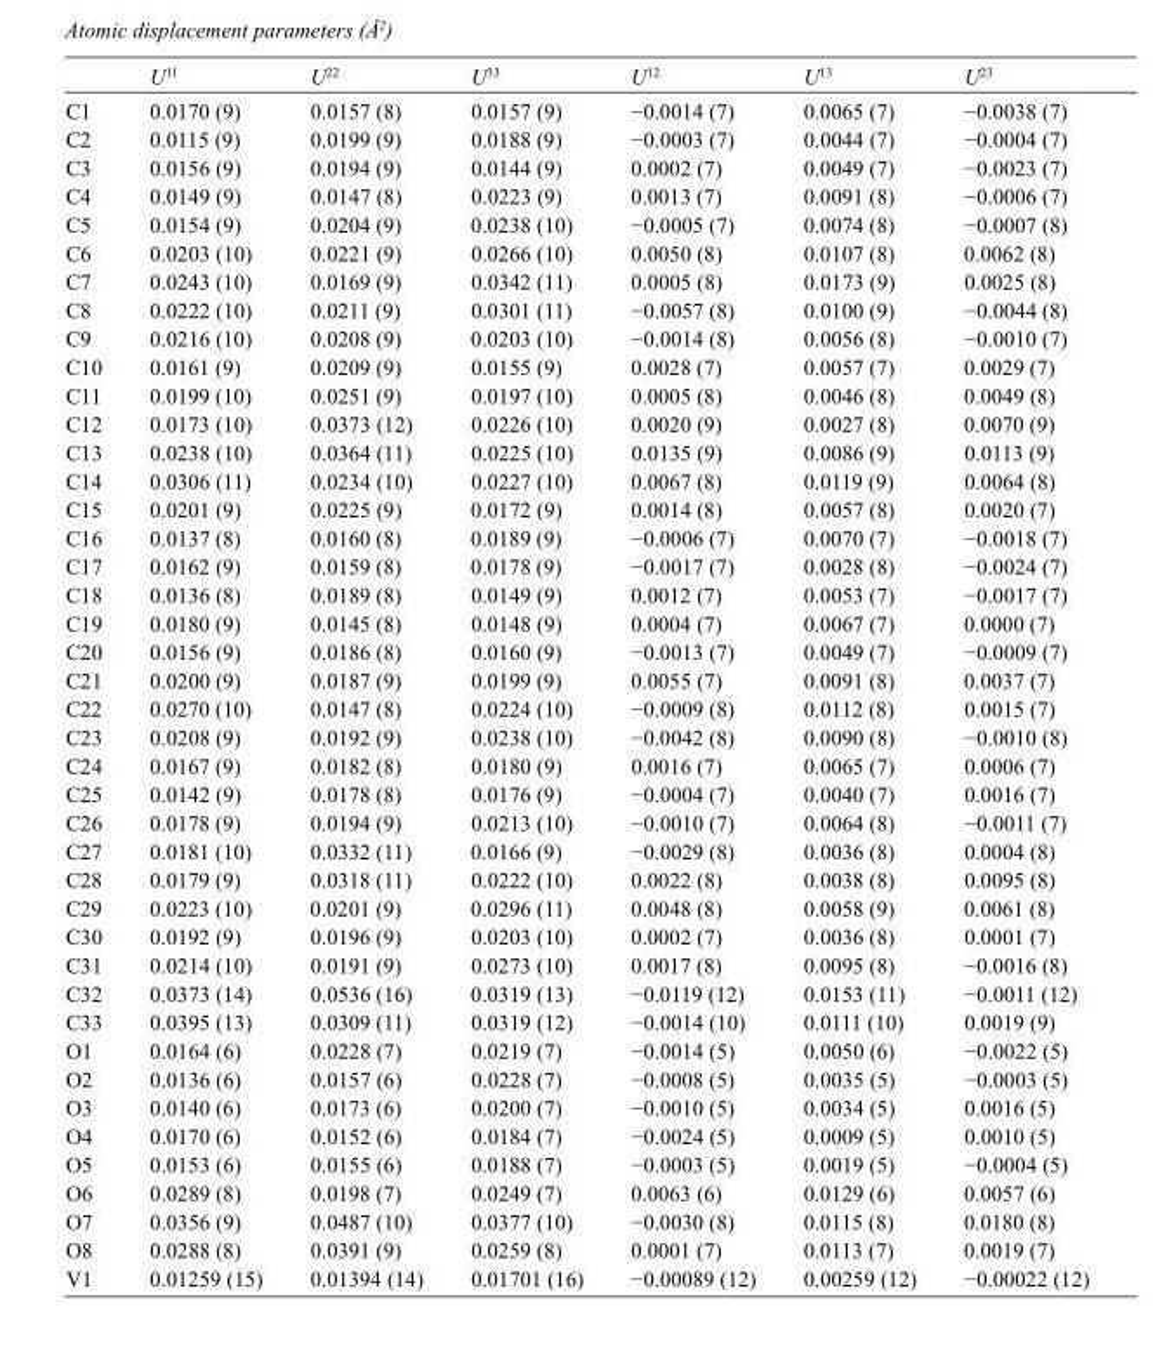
<table><thead><tr><td></td><td>U<sup>11</sup></td><td>U<sup>22</sup></td><td>U<sup>33</sup></td><td>U<sup>12</sup></td><td>U<sup>13</sup></td><td>U<sup>23</sup></td></tr></thead><tbody><tr><td>C1</td><td>0.0170 (9)</td><td>0.0157 (8)</td><td>0.0157 (9)</td><td>−0.0014 (7)</td><td>0.0065 (7)</td><td>−0.0038 (7)</td></tr><tr><td>C2</td><td>0.0115 (9)</td><td>0.0199 (9)</td><td>0.0188 (9)</td><td>−0.0003 (7)</td><td>0.0044 (7)</td><td>−0.0004 (7)</td></tr><tr><td>C3</td><td>0.0156 (9)</td><td>0.0194 (9)</td><td>0.0144 (9)</td><td>0.0002 (7)</td><td>0.0049 (7)</td><td>−0.0023 (7)</td></tr><tr><td>C4</td><td>0.0149 (9)</td><td>0.0147 (8)</td><td>0.0223 (9)</td><td>0.0013 (7)</td><td>0.0091 (8)</td><td>−0.0006 (7)</td></tr><tr><td>C5</td><td>0.0154 (9)</td><td>0.0204 (9)</td><td>0.0238 (10)</td><td>−0.0005 (7)</td><td>0.0074 (8)</td><td>−0.0007 (8)</td></tr><tr><td>C6</td><td>0.0203 (10)</td><td>0.0221 (9)</td><td>0.0266 (10)</td><td>0.0050 (8)</td><td>0.0107 (8)</td><td>0.0062 (8)</td></tr><tr><td>C7</td><td>0.0243 (10)</td><td>0.0169 (9)</td><td>0.0342 (11)</td><td>0.0005 (8)</td><td>0.0173 (9)</td><td>0.0025 (8)</td></tr><tr><td>C8</td><td>0.0222 (10)</td><td>0.0211 (9)</td><td>0.0301 (11)</td><td>−0.0057 (8)</td><td>0.0100 (9)</td><td>−0.0044 (8)</td></tr><tr><td>C9</td><td>0.0216 (10)</td><td>0.0208 (9)</td><td>0.0203 (10)</td><td>−0.0014 (8)</td><td>0.0056 (8)</td><td>−0.0010 (7)</td></tr><tr><td>C10</td><td>0.0161 (9)</td><td>0.0209 (9)</td><td>0.0155 (9)</td><td>0.0028 (7)</td><td>0.0057 (7)</td><td>0.0029 (7)</td></tr><tr><td>C11</td><td>0.0199 (10)</td><td>0.0251 (9)</td><td>0.0197 (10)</td><td>0.0005 (8)</td><td>0.0046 (8)</td><td>0.0049 (8)</td></tr><tr><td>C12</td><td>0.0173 (10)</td><td>0.0373 (12)</td><td>0.0226 (10)</td><td>0.0020 (9)</td><td>0.0027 (8)</td><td>0.0070 (9)</td></tr><tr><td>C13</td><td>0.0238 (10)</td><td>0.0364 (11)</td><td>0.0225 (10)</td><td>0.0135 (9)</td><td>0.0086 (9)</td><td>0.0113 (9)</td></tr><tr><td>C14</td><td>0.0306 (11)</td><td>0.0234 (10)</td><td>0.0227 (10)</td><td>0.0067 (8)</td><td>0.0119 (9)</td><td>0.0064 (8)</td></tr><tr><td>C15</td><td>0.0201 (9)</td><td>0.0225 (9)</td><td>0.0172 (9)</td><td>0.0014 (8)</td><td>0.0057 (8)</td><td>0.0020 (7)</td></tr><tr><td>C16</td><td>0.0137 (8)</td><td>0.0160 (8)</td><td>0.0189 (9)</td><td>−0.0006 (7)</td><td>0.0070 (7)</td><td>−0.0018 (7)</td></tr><tr><td>C17</td><td>0.0162 (9)</td><td>0.0159 (8)</td><td>0.0178 (9)</td><td>−0.0017 (7)</td><td>0.0028 (8)</td><td>−0.0024 (7)</td></tr><tr><td>C18</td><td>0.0136 (8)</td><td>0.0189 (8)</td><td>0.0149 (9)</td><td>0.0012 (7)</td><td>0.0053 (7)</td><td>−0.0017 (7)</td></tr><tr><td>C19</td><td>0.0180 (9)</td><td>0.0145 (8)</td><td>0.0148 (9)</td><td>0.0004 (7)</td><td>0.0067 (7)</td><td>0.0000 (7)</td></tr><tr><td>C20</td><td>0.0156 (9)</td><td>0.0186 (8)</td><td>0.0160 (9)</td><td>−0.0013 (7)</td><td>0.0049 (7)</td><td>−0.0009 (7)</td></tr><tr><td>C21</td><td>0.0200 (9)</td><td>0.0187 (9)</td><td>0.0199 (9)</td><td>0.0055 (7)</td><td>0.0091 (8)</td><td>0.0037 (7)</td></tr><tr><td>C22</td><td>0.0270 (10)</td><td>0.0147 (8)</td><td>0.0224 (10)</td><td>−0.0009 (8)</td><td>0.0112 (8)</td><td>0.0015 (7)</td></tr><tr><td>C23</td><td>0.0208 (9)</td><td>0.0192 (9)</td><td>0.0238 (10)</td><td>−0.0042 (8)</td><td>0.0090 (8)</td><td>−0.0010 (8)</td></tr><tr><td>C24</td><td>0.0167 (9)</td><td>0.0182 (8)</td><td>0.0180 (9)</td><td>0.0016 (7)</td><td>0.0065 (7)</td><td>0.0006 (7)</td></tr><tr><td>C25</td><td>0.0142 (9)</td><td>0.0178 (8)</td><td>0.0176 (9)</td><td>−0.0004 (7)</td><td>0.0040 (7)</td><td>0.0016 (7)</td></tr><tr><td>C26</td><td>0.0178 (9)</td><td>0.0194 (9)</td><td>0.0213 (10)</td><td>−0.0010 (7)</td><td>0.0064 (8)</td><td>−0.0011 (7)</td></tr><tr><td>C27</td><td>0.0181 (10)</td><td>0.0332 (11)</td><td>0.0166 (9)</td><td>−0.0029 (8)</td><td>0.0036 (8)</td><td>0.0004 (8)</td></tr><tr><td>C28</td><td>0.0179 (9)</td><td>0.0318 (11)</td><td>0.0222 (10)</td><td>0.0022 (8)</td><td>0.0038 (8)</td><td>0.0095 (8)</td></tr><tr><td>C29</td><td>0.0223 (10)</td><td>0.0201 (9)</td><td>0.0296 (11)</td><td>0.0048 (8)</td><td>0.0058 (9)</td><td>0.0061 (8)</td></tr><tr><td>C30</td><td>0.0192 (9)</td><td>0.0196 (9)</td><td>0.0203 (10)</td><td>0.0002 (7)</td><td>0.0036 (8)</td><td>0.0001 (7)</td></tr><tr><td>C31</td><td>0.0214 (10)</td><td>0.0191 (9)</td><td>0.0273 (10)</td><td>0.0017 (8)</td><td>0.0095 (8)</td><td>−0.0016 (8)</td></tr><tr><td>C32</td><td>0.0373 (14)</td><td>0.0536 (16)</td><td>0.0319 (13)</td><td>−0.0119 (12)</td><td>0.0153 (11)</td><td>−0.0011 (12)</td></tr><tr><td>C33</td><td>0.0395 (13)</td><td>0.0309 (11)</td><td>0.0319 (12)</td><td>−0.0014 (10)</td><td>0.0111 (10)</td><td>0.0019 (9)</td></tr><tr><td>O1</td><td>0.0164 (6)</td><td>0.0228 (7)</td><td>0.0219 (7)</td><td>−0.0014 (5)</td><td>0.0050 (6)</td><td>−0.0022 (5)</td></tr><tr><td>O2</td><td>0.0136 (6)</td><td>0.0157 (6)</td><td>0.0228 (7)</td><td>−0.0008 (5)</td><td>0.0035 (5)</td><td>−0.0003 (5)</td></tr><tr><td>O3</td><td>0.0140 (6)</td><td>0.0173 (6)</td><td>0.0200 (7)</td><td>−0.0010 (5)</td><td>0.0034 (5)</td><td>0.0016 (5)</td></tr><tr><td>O4</td><td>0.0170 (6)</td><td>0.0152 (6)</td><td>0.0184 (7)</td><td>−0.0024 (5)</td><td>0.0009 (5)</td><td>0.0010 (5)</td></tr><tr><td>O5</td><td>0.0153 (6)</td><td>0.0155 (6)</td><td>0.0188 (7)</td><td>−0.0003 (5)</td><td>0.0019 (5)</td><td>−0.0004 (5)</td></tr><tr><td>O6</td><td>0.0289 (8)</td><td>0.0198 (7)</td><td>0.0249 (7)</td><td>0.0063 (6)</td><td>0.0129 (6)</td><td>0.0057 (6)</td></tr><tr><td>O7</td><td>0.0356 (9)</td><td>0.0487 (10)</td><td>0.0377 (10)</td><td>−0.0030 (8)</td><td>0.0115 (8)</td><td>0.0180 (8)</td></tr><tr><td>O8</td><td>0.0288 (8)</td><td>0.0391 (9)</td><td>0.0259 (8)</td><td>0.0001 (7)</td><td>0.0113 (7)</td><td>0.0019 (7)</td></tr><tr><td>V1</td><td>0.01259 (15)</td><td>0.01394 (14)</td><td>0.01701 (16)</td><td>−0.00089 (12)</td><td>0.00259 (12)</td><td>−0.00022 (12)</td></tr></tbody></table>